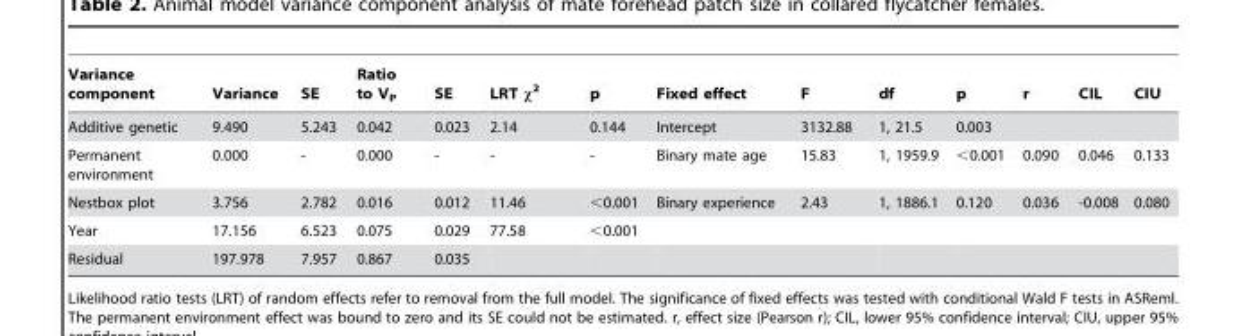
<table><thead><tr><td>Variance component</td><td>Variance</td><td>SE</td><td>Ratio to V<sub>P</sub></td><td>SE</td><td>LRT χ<sup>2</sup></td><td>p</td><td>Fixed effect</td><td>F</td><td>df</td><td>p</td><td>r</td><td>CIL</td><td>CIU</td></tr></thead><tbody><tr><td>Additive genetic</td><td>9.490</td><td>5.243</td><td>0.042</td><td>0.023</td><td>2.14</td><td>0.144</td><td>Intercept</td><td>3132.88</td><td>1, 21.5</td><td>0.003</td><td></td><td></td><td></td></tr><tr><td>Permanent environment</td><td>0.000</td><td>-</td><td>0.000</td><td>-</td><td>-</td><td>-</td><td>Binary mate age</td><td>15.83</td><td>1, 1959.9</td><td>&lt;0.001</td><td>0.090</td><td>0.046</td><td>0.133</td></tr><tr><td>Nestbox plot</td><td>3.756</td><td>2.782</td><td>0.016</td><td>0.012</td><td>11.46</td><td>&lt;0.001</td><td>Binary experience</td><td>2.43</td><td>1, 1886.1</td><td>0.120</td><td>0.036</td><td>-0.008</td><td>0.080</td></tr><tr><td>Year</td><td>17.156</td><td>6.523</td><td>0.075</td><td>0.029</td><td>77.58</td><td>&lt;0.001</td><td></td><td></td><td></td><td></td><td></td><td></td><td></td></tr><tr><td>Residual</td><td>197.978</td><td>7.957</td><td>0.867</td><td>0.035</td><td></td><td></td><td></td><td></td><td></td><td></td><td></td><td></td><td></td></tr></tbody></table>